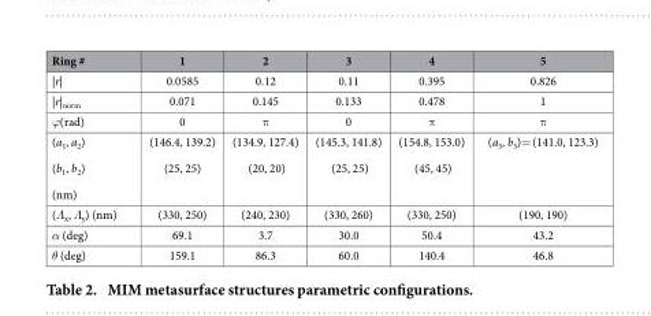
<table><thead><tr><td>Ring #</td><td>1</td><td>2</td><td>3</td><td>4</td><td>5</td></tr></thead><tbody><tr><td>|r|</td><td>0.0585</td><td>0.12</td><td>0.11</td><td>0.395</td><td>0.826</td></tr><tr><td>|r|<sub>norm</sub></td><td>0.071</td><td>0.145</td><td>0.133</td><td>0.478</td><td>1</td></tr><tr><td>ϕ(rad)</td><td>0</td><td>π</td><td>0</td><td>π</td><td>π</td></tr><tr><td>(a<sub>1</sub>, a<sub>2</sub>) (b<sub>1</sub>, b<sub>2</sub>) (nm)</td><td>(146.4, 139.2) (25, 25)</td><td>(134.9, 127.4) (20, 20)</td><td>(145.3, 141.8) (25, 25)</td><td>(154.8, 153.0) (45, 45)</td><td>(a<sub>3</sub>, b<sub>3</sub>)= (141.0, 123.3)</td></tr><tr><td>(Λ<sub>x</sub>, Λ<sub>y</sub>) (nm)</td><td>(330, 250)</td><td>(240, 230)</td><td>(330, 260)</td><td>(330, 250)</td><td>(190, 190)</td></tr><tr><td>α (deg)</td><td>69.1</td><td>3.7</td><td>30.0</td><td>50.4</td><td>43.2</td></tr><tr><td>θ (deg)</td><td>159.1</td><td>86.3</td><td>60.0</td><td>140.4</td><td>46.8</td></tr></tbody></table>